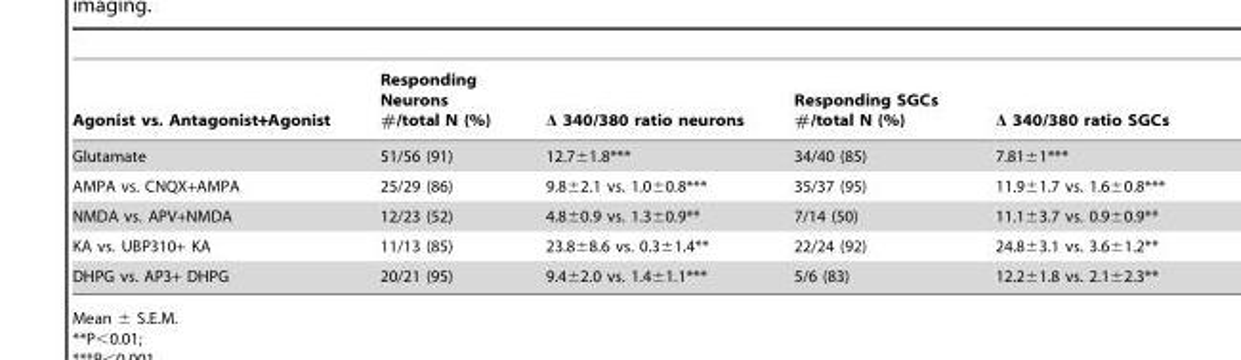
<table><thead><tr><td>Agonist vs. Antagonist+Agonist</td><td>Responding Neurons #/total N (%)</td><td>Δ 340/380 ratio neurons</td><td>Responding SGCs #/total N (%)</td><td>Δ 340/380 ratio SGCs</td></tr></thead><tbody><tr><td>Glutamate</td><td>51/56 (91)</td><td>12.7±1.8***</td><td>34/40 (85)</td><td>7.81±1***</td></tr><tr><td>AMPA vs. CNQX+AMPA</td><td>25/29 (86)</td><td>9.8±2.1 vs. 1.0±0.8***</td><td>35/37 (95)</td><td>11.9±1.7 vs. 1.6±0.8***</td></tr><tr><td>NMDA vs. APV+NMDA</td><td>12/23 (52)</td><td>4.8±0.9 vs. 1.3±0.9**</td><td>7/14 (50)</td><td>11.1±3.7 vs. 0.9±0.9**</td></tr><tr><td>KA vs. UBP310+ KA</td><td>11/13 (85)</td><td>23.8±8.6 vs. 0.3±1.4**</td><td>22/24 (92)</td><td>24.8±3.1 vs. 3.6±1.2**</td></tr><tr><td>DHPG vs. AP3+ DHPG</td><td>20/21 (95)</td><td>9.4±2.0 vs. 1.4±1.1***</td><td>5/6 (83)</td><td>12.2±1.8 vs. 2.1±2.3**</td></tr></tbody></table>